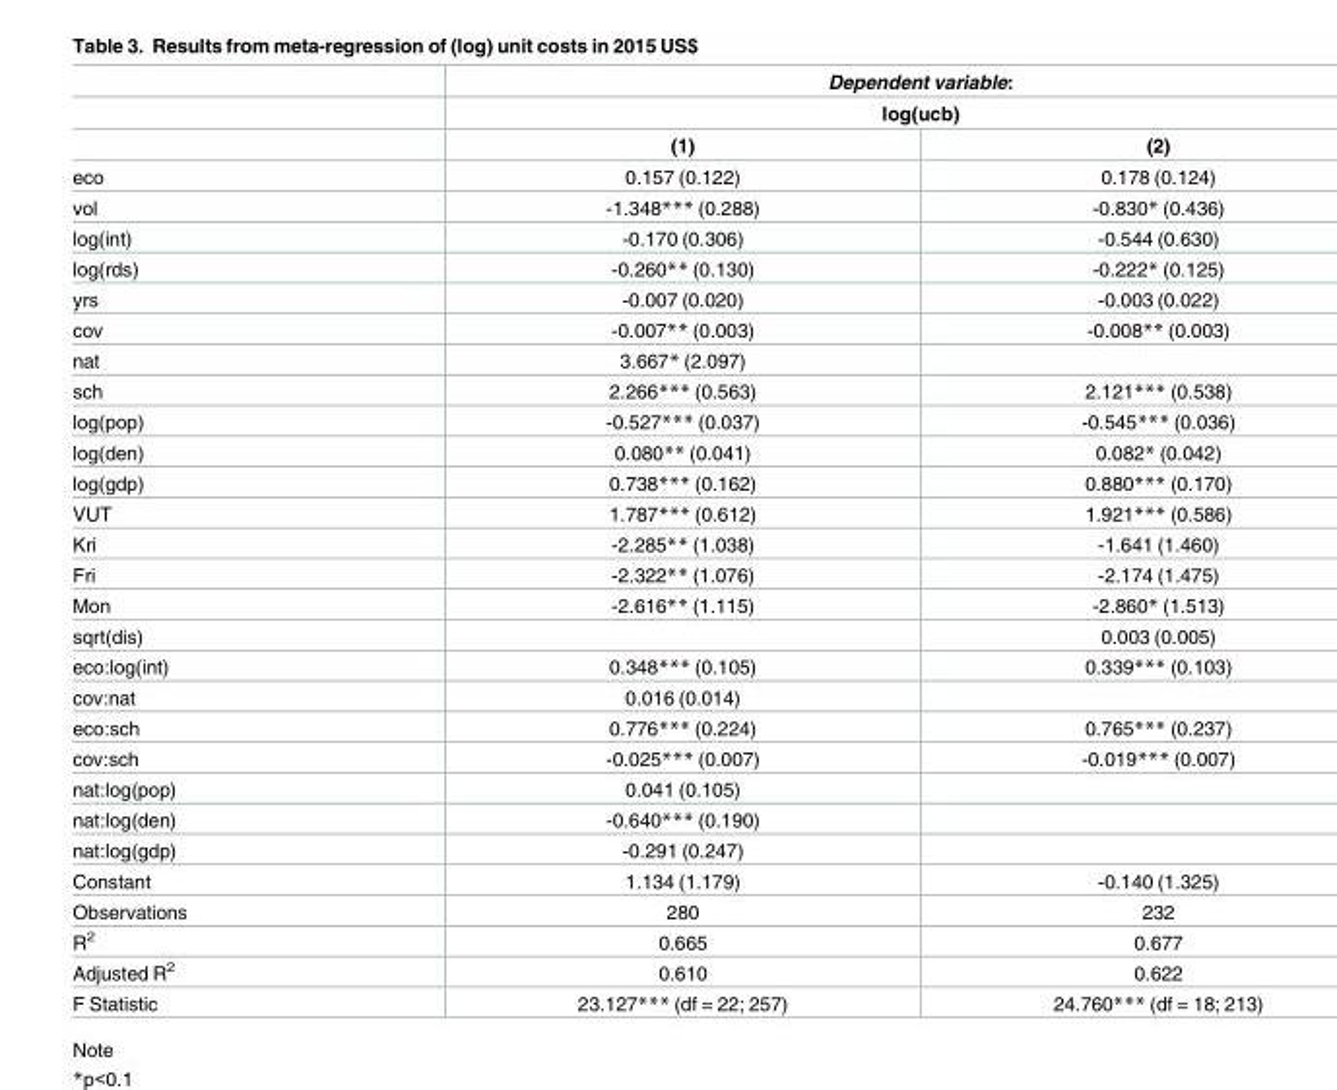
<table><thead><tr><td rowspan="3"></td><td rowspan="2" colspan="2">Dependent variable: log(ucb)</td></tr><tr></tr><tr><td>(1)</td><td>(2)</td></tr></thead><tbody><tr><td>eco</td><td>0.157 (0.122)</td><td>0.178 (0.124)</td></tr><tr><td>vol</td><td>-1.348*** (0.288)</td><td>-0.830* (0.436)</td></tr><tr><td>log(int)</td><td>-0.170 (0.306)</td><td>-0.544 (0.630)</td></tr><tr><td>log(rds)</td><td>-0.260** (0.130)</td><td>-0.222* (0.125)</td></tr><tr><td>yrs</td><td>-0.007 (0.020)</td><td>-0.003 (0.022)</td></tr><tr><td>cov</td><td>-0.007** (0.003)</td><td>-0.008** (0.003)</td></tr><tr><td>nat</td><td>3.667* (2.097)</td><td></td></tr><tr><td>sch</td><td>2.266*** (0.563)</td><td>2.121*** (0.538)</td></tr><tr><td>log(pop)</td><td>-0.527*** (0.037)</td><td>-0.545*** (0.036)</td></tr><tr><td>log(den)</td><td>0.080** (0.041)</td><td>0.082* (0.042)</td></tr><tr><td>log(gdp)</td><td>0.738*** (0.162)</td><td>0.880*** (0.170)</td></tr><tr><td>VUT</td><td>1.787*** (0.612)</td><td>1.921*** (0.586)</td></tr><tr><td>Kri</td><td>-2.285** (1.038)</td><td>-1.641 (1.460)</td></tr><tr><td>Fri</td><td>-2.322** (1.076)</td><td>-2.174 (1.475)</td></tr><tr><td>Mon</td><td>-2.616** (1.115)</td><td>-2.860* (1.513)</td></tr><tr><td>sqrt(dis)</td><td></td><td>0.003 (0.005)</td></tr><tr><td>eco:log(int)</td><td>0.348*** (0.105)</td><td>0.339*** (0.103)</td></tr><tr><td>cov:nat</td><td>0.016 (0.014)</td><td></td></tr><tr><td>eco:sch</td><td>0.776*** (0.224)</td><td>0.765*** (0.237)</td></tr><tr><td>cov:sch</td><td>-0.025*** (0.007)</td><td>-0.019*** (0.007)</td></tr><tr><td>nat:log(pop)</td><td>0.041 (0.105)</td><td></td></tr><tr><td>nat:log(den)</td><td>-0.640*** (0.190)</td><td></td></tr><tr><td>nat:log(gdp)</td><td>-0.291 (0.247)</td><td></td></tr><tr><td>Constant</td><td>1.134 (1.179)</td><td>-0.140 (1.325)</td></tr><tr><td>Observations</td><td>280</td><td>232</td></tr><tr><td>R<sup>2</sup></td><td>0.665</td><td>0.677</td></tr><tr><td>Adjusted R<sup>2</sup></td><td>0.610</td><td>0.622</td></tr><tr><td>F Statistic</td><td>23.127*** (df = 22; 257)</td><td>24.760*** (df = 18; 213)</td></tr></tbody></table>